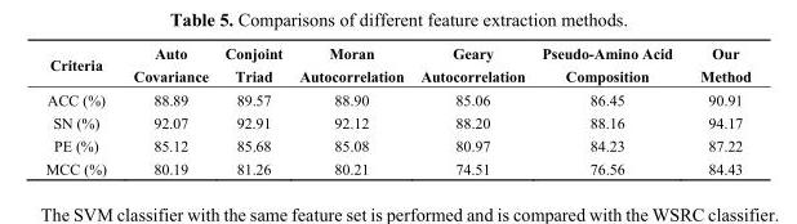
<table><thead><tr><td>Criteria</td><td>Auto Covariance</td><td>Conjoint Triad</td><td>Moran Autocorrelation</td><td>Geary Autocorrelation</td><td>Pseudo-Amino Acid Composition</td><td>Our Method</td></tr></thead><tbody><tr><td>ACC (%)</td><td>88.89</td><td>89.57</td><td>88.90</td><td>85.06</td><td>86.45</td><td>90.91</td></tr><tr><td>SN (%)</td><td>92.07</td><td>92.91</td><td>92.12</td><td>88.20</td><td>88.16</td><td>94.17</td></tr><tr><td>PE (%)</td><td>85.12</td><td>85.68</td><td>85.08</td><td>80.97</td><td>84.23</td><td>87.22</td></tr><tr><td>MCC (%)</td><td>80.19</td><td>81.26</td><td>80.21</td><td>74.51</td><td>76.56</td><td>84.43</td></tr></tbody></table>